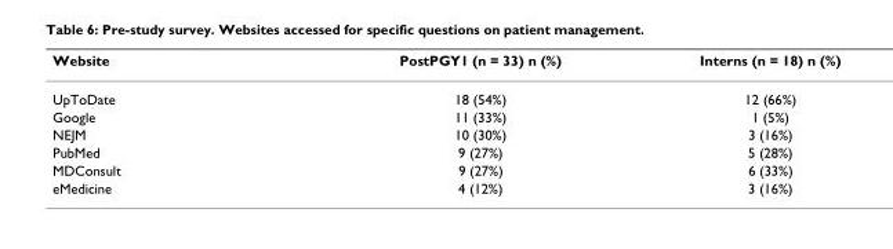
<table><thead><tr><td>Website</td><td>PostPGY1 (n = 33) n (%)</td><td>Interns (n = 18) n (%)</td></tr></thead><tbody><tr><td>UpToDate</td><td>18 (54%)</td><td>12 (66%)</td></tr><tr><td>Google</td><td>11 (33%)</td><td>1 (5%)</td></tr><tr><td>NEJM</td><td>10 (30%)</td><td>3 (16%)</td></tr><tr><td>PubMed</td><td>9 (27%)</td><td>5 (28%)</td></tr><tr><td>MDConsult</td><td>9 (27%)</td><td>6 (33%)</td></tr><tr><td>eMedicine</td><td>4 (12%)</td><td>3 (16%)</td></tr></tbody></table>